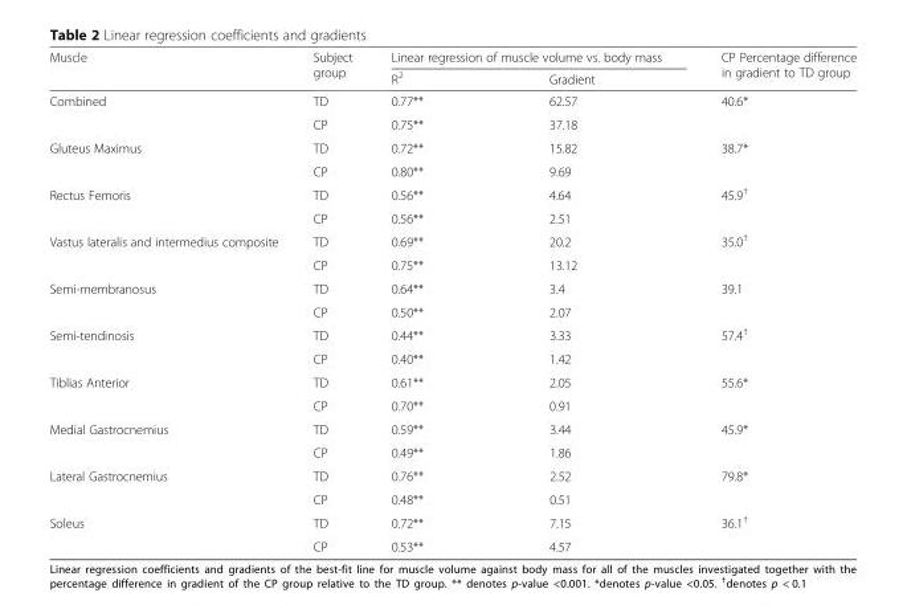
<table><thead><tr><td rowspan="2">Muscle</td><td rowspan="2">Subject group</td><td colspan="2">Linear regression of muscle volume vs. body mass</td><td rowspan="2">CP Percentage difference in gradient to TD group</td></tr><tr><td>R<sup>2</sup></td><td>Gradient</td></tr></thead><tbody><tr><td rowspan="2">Combined</td><td>TD</td><td>0.77**</td><td>62.57</td><td rowspan="2">40.6*</td></tr><tr><td>CP</td><td>0.75**</td><td>37.18</td></tr><tr><td rowspan="2">Gluteus Maximus</td><td>TD</td><td>0.72**</td><td>15.82</td><td rowspan="2">38.7*</td></tr><tr><td>CP</td><td>0.80**</td><td>9.69</td></tr><tr><td rowspan="2">Rectus Femoris</td><td>TD</td><td>0.56**</td><td>4.64</td><td rowspan="2">45.9<sup>†</sup></td></tr><tr><td>CP</td><td>0.56**</td><td>2.51</td></tr><tr><td rowspan="2">Vastus lateralis and intermedius composite</td><td>TD</td><td>0.69**</td><td>20.2</td><td rowspan="2">35.0<sup>†</sup></td></tr><tr><td>CP</td><td>0.75**</td><td>13.12</td></tr><tr><td rowspan="2">Semi-membranosus</td><td>TD</td><td>0.64**</td><td>3.4</td><td rowspan="2">39.1</td></tr><tr><td>CP</td><td>0.50**</td><td>2.07</td></tr><tr><td rowspan="2">Semi-tendinosis</td><td>TD</td><td>0.44**</td><td>3.33</td><td rowspan="2">57.4<sup>†</sup></td></tr><tr><td>CP</td><td>0.40**</td><td>1.42</td></tr><tr><td rowspan="2">Tiblias Anterior</td><td>TD</td><td>0.61**</td><td>2.05</td><td rowspan="2">55.6*</td></tr><tr><td>CP</td><td>0.70**</td><td>0.91</td></tr><tr><td rowspan="2">Medial Gastrocnemius</td><td>TD</td><td>0.59**</td><td>3.44</td><td rowspan="2">45.9*</td></tr><tr><td>CP</td><td>0.49**</td><td>1.86</td></tr><tr><td rowspan="2">Lateral Gastrocnemius</td><td>TD</td><td>0.76**</td><td>2.52</td><td rowspan="2">79.8*</td></tr><tr><td>CP</td><td>0.48**</td><td>0.51</td></tr><tr><td rowspan="2">Soleus</td><td>TD</td><td>0.72**</td><td>7.15</td><td rowspan="2">36.1<sup>†</sup></td></tr><tr><td>CP</td><td>0.53**</td><td>4.57</td></tr></tbody></table>